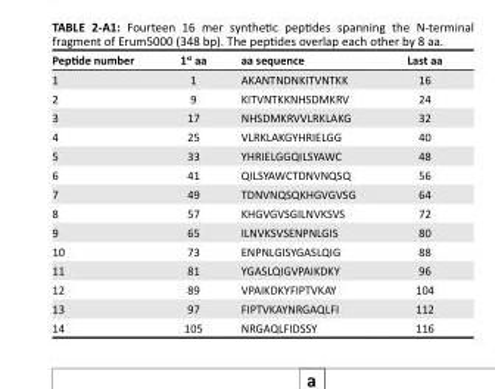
<table><thead><tr><td>Peptide number</td><td>1<sup>st</sup> aa</td><td>aa sequence</td><td>Last aa</td></tr></thead><tbody><tr><td>1</td><td>1</td><td>AKANTNDNKITVNTKK</td><td>16</td></tr><tr><td>2</td><td>9</td><td>KITVNTKKNHSDMKRV</td><td>24</td></tr><tr><td>3</td><td>17</td><td>NHSDMKRVVLRKLAKG</td><td>32</td></tr><tr><td>4</td><td>25</td><td>VLRKLAKGYHRIELGG</td><td>40</td></tr><tr><td>5</td><td>33</td><td>YHRIELGGQILSYAWC</td><td>48</td></tr><tr><td>6</td><td>41</td><td>QILSYAWCTDNVNQSQ</td><td>56</td></tr><tr><td>7</td><td>49</td><td>TDNVNQSQKHGVGVSG</td><td>64</td></tr><tr><td>8</td><td>57</td><td>KHGVGVSGILNVKSVS</td><td>72</td></tr><tr><td>9</td><td>65</td><td>ILNVKSVSENPNLGIS</td><td>80</td></tr><tr><td>10</td><td>73</td><td>ENPNLGISYGASLQIG</td><td>88</td></tr><tr><td>11</td><td>81</td><td>YGASLQIGVPAIKDKY</td><td>96</td></tr><tr><td>12</td><td>89</td><td>VPAIKDKYFIPTVKAY</td><td>104</td></tr><tr><td>13</td><td>97</td><td>FIPTVKAYNRGAQLFI</td><td>112</td></tr><tr><td>14</td><td>105</td><td>NRGAQLFIDSSY</td><td>116</td></tr></tbody></table>